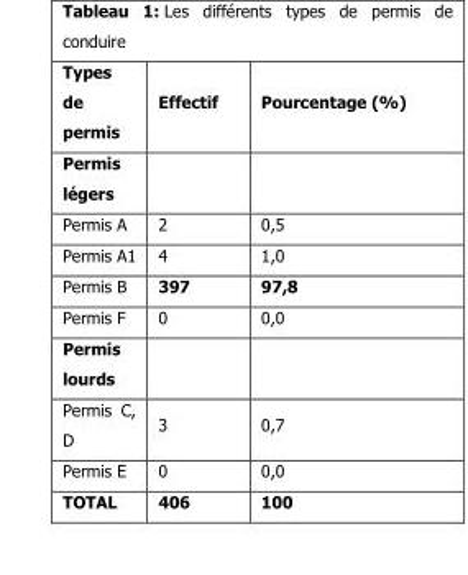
<table><thead><tr><td>Types de permis</td><td>Effectif</td><td>Pourcentage (%)</td></tr></thead><tbody><tr><td colspan="3">Permis légers</td></tr><tr><td>Permis A</td><td>2</td><td>0,5</td></tr><tr><td>Permis A1</td><td>4</td><td>1,0</td></tr><tr><td>Permis B</td><td>397</td><td>97,8</td></tr><tr><td>Permis F</td><td>0</td><td>0,0</td></tr><tr><td colspan="3">Permis lourds</td></tr><tr><td>Permis C, D</td><td>3</td><td>0,7</td></tr><tr><td>Permis E</td><td>0</td><td>0,0</td></tr><tr><td>TOTAL</td><td>406</td><td>100</td></tr></tbody></table>